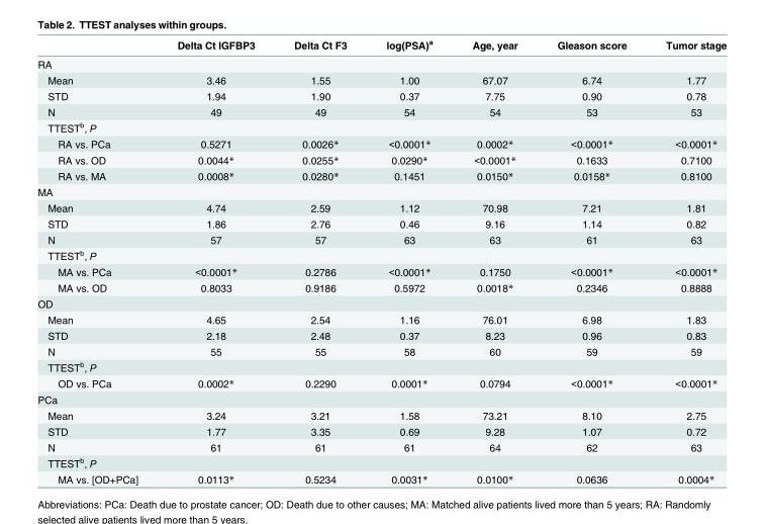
<table><thead><tr><td></td><td>Delta Ct IGFBP3</td><td>Delta Ct F3</td><td>log(PSA)<sup>a</sup></td><td>Age, year</td><td>Gleason score</td><td>Tumor stage</td></tr></thead><tbody><tr><td colspan="7">RA</td></tr><tr><td>Mean</td><td>3.46</td><td>1.55</td><td>1.00</td><td>67.07</td><td>6.74</td><td>1.77</td></tr><tr><td>STD</td><td>1.94</td><td>1.90</td><td>0.37</td><td>7.75</td><td>0.90</td><td>0.78</td></tr><tr><td>N</td><td>49</td><td>49</td><td>54</td><td>54</td><td>53</td><td>53</td></tr><tr><td colspan="7">TTEST<sup>b</sup>, P</td></tr><tr><td>RA vs. PCa</td><td>0.5271</td><td>0.0026*</td><td>&lt;0.0001*</td><td>0.0002*</td><td>&lt;0.0001*</td><td>&lt;0.0001*</td></tr><tr><td>RA vs. OD</td><td>0.0044*</td><td>0.0255*</td><td>0.0290*</td><td>&lt;0.0001*</td><td>0.1633</td><td>0.7100</td></tr><tr><td>RA vs. MA</td><td>0.0008*</td><td>0.0280*</td><td>0.1451</td><td>0.0150*</td><td>0.0158*</td><td>0.8100</td></tr><tr><td colspan="7">MA</td></tr><tr><td>Mean</td><td>4.74</td><td>2.59</td><td>1.12</td><td>70.98</td><td>7.21</td><td>1.81</td></tr><tr><td>STD</td><td>1.86</td><td>2.76</td><td>0.46</td><td>9.16</td><td>1.14</td><td>0.82</td></tr><tr><td>N</td><td>57</td><td>57</td><td>63</td><td>63</td><td>61</td><td>63</td></tr><tr><td colspan="7">TTEST<sup>b</sup>, P</td></tr><tr><td>MA vs. PCa</td><td>&lt;0.0001*</td><td>0.2786</td><td>&lt;0.0001*</td><td>0.1750</td><td>&lt;0.0001*</td><td>&lt;0.0001*</td></tr><tr><td>MA vs. OD</td><td>0.8033</td><td>0.9186</td><td>0.5972</td><td>0.0018*</td><td>0.2346</td><td>0.8888</td></tr><tr><td colspan="7">OD</td></tr><tr><td>Mean</td><td>4.65</td><td>2.54</td><td>1.16</td><td>76.01</td><td>6.98</td><td>1.83</td></tr><tr><td>STD</td><td>2.18</td><td>2.48</td><td>0.37</td><td>8.23</td><td>0.96</td><td>0.83</td></tr><tr><td>N</td><td>55</td><td>55</td><td>58</td><td>60</td><td>59</td><td>59</td></tr><tr><td colspan="7">TTEST<sup>b</sup>, P</td></tr><tr><td>OD vs. PCa</td><td>0.0002*</td><td>0.2290</td><td>0.0001*</td><td>0.0794</td><td>&lt;0.0001*</td><td>&lt;0.0001*</td></tr><tr><td colspan="7">PCa</td></tr><tr><td>Mean</td><td>3.24</td><td>3.21</td><td>1.58</td><td>73.21</td><td>8.10</td><td>2.75</td></tr><tr><td>STD</td><td>1.77</td><td>3.35</td><td>0.69</td><td>9.28</td><td>1.07</td><td>0.72</td></tr><tr><td>N</td><td>61</td><td>61</td><td>61</td><td>64</td><td>62</td><td>63</td></tr><tr><td colspan="7">TTEST<sup>b</sup>, P</td></tr><tr><td>MA vs. [OD+PCa]</td><td>0.0113*</td><td>0.5234</td><td>0.0031*</td><td>0.0100*</td><td>0.0636</td><td>0.0004*</td></tr></tbody></table>